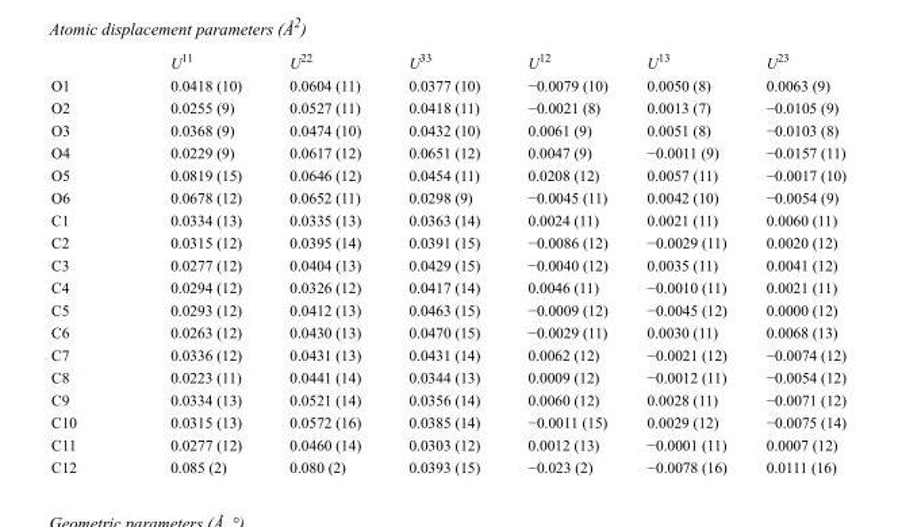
<table><thead><tr><td></td><td>U<sup>11</sup></td><td>U<sup>22</sup></td><td>U<sup>33</sup></td><td>U<sup>12</sup></td><td>U<sup>13</sup></td><td>U<sup>23</sup></td></tr></thead><tbody><tr><td>O1</td><td>0.0418 (10)</td><td>0.0604 (11)</td><td>0.0377 (10)</td><td>−0.0079 (10)</td><td>0.0050 (8)</td><td>0.0063 (9)</td></tr><tr><td>O2</td><td>0.0255 (9)</td><td>0.0527 (11)</td><td>0.0418 (11)</td><td>−0.0021 (8)</td><td>0.0013 (7)</td><td>−0.0105 (9)</td></tr><tr><td>O3</td><td>0.0368 (9)</td><td>0.0474 (10)</td><td>0.0432 (10)</td><td>0.0061 (9)</td><td>0.0051 (8)</td><td>−0.0103 (8)</td></tr><tr><td>O4</td><td>0.0229 (9)</td><td>0.0617 (12)</td><td>0.0651 (12)</td><td>0.0047 (9)</td><td>−0.0011 (9)</td><td>−0.0157 (11)</td></tr><tr><td>O5</td><td>0.0819 (15)</td><td>0.0646 (12)</td><td>0.0454 (11)</td><td>0.0208 (12)</td><td>0.0057 (11)</td><td>−0.0017 (10)</td></tr><tr><td>O6</td><td>0.0678 (12)</td><td>0.0652 (11)</td><td>0.0298 (9)</td><td>−0.0045 (11)</td><td>0.0042 (10)</td><td>−0.0054 (9)</td></tr><tr><td>C1</td><td>0.0334 (13)</td><td>0.0335 (13)</td><td>0.0363 (14)</td><td>0.0024 (11)</td><td>0.0021 (11)</td><td>0.0060 (11)</td></tr><tr><td>C2</td><td>0.0315 (12)</td><td>0.0395 (14)</td><td>0.0391 (15)</td><td>−0.0086 (12)</td><td>−0.0029 (11)</td><td>0.0020 (12)</td></tr><tr><td>C3</td><td>0.0277 (12)</td><td>0.0404 (13)</td><td>0.0429 (15)</td><td>−0.0040 (12)</td><td>0.0035 (11)</td><td>0.0041 (12)</td></tr><tr><td>C4</td><td>0.0294 (12)</td><td>0.0326 (12)</td><td>0.0417 (14)</td><td>0.0046 (11)</td><td>−0.0010 (11)</td><td>0.0021 (11)</td></tr><tr><td>C5</td><td>0.0293 (12)</td><td>0.0412 (13)</td><td>0.0463 (15)</td><td>−0.0009 (12)</td><td>−0.0045 (12)</td><td>0.0000 (12)</td></tr><tr><td>C6</td><td>0.0263 (12)</td><td>0.0430 (13)</td><td>0.0470 (15)</td><td>−0.0029 (11)</td><td>0.0030 (11)</td><td>0.0068 (13)</td></tr><tr><td>C7</td><td>0.0336 (12)</td><td>0.0431 (13)</td><td>0.0431 (14)</td><td>0.0062 (12)</td><td>−0.0021 (12)</td><td>−0.0074 (12)</td></tr><tr><td>C8</td><td>0.0223 (11)</td><td>0.0441 (14)</td><td>0.0344 (13)</td><td>0.0009 (12)</td><td>−0.0012 (11)</td><td>−0.0054 (12)</td></tr><tr><td>C9</td><td>0.0334 (13)</td><td>0.0521 (14)</td><td>0.0356 (14)</td><td>0.0060 (12)</td><td>0.0028 (11)</td><td>−0.0071 (12)</td></tr><tr><td>C10</td><td>0.0315 (13)</td><td>0.0572 (16)</td><td>0.0385 (14)</td><td>−0.0011 (15)</td><td>0.0029 (12)</td><td>−0.0075 (14)</td></tr><tr><td>C11</td><td>0.0277 (12)</td><td>0.0460 (14)</td><td>0.0303 (12)</td><td>0.0012 (13)</td><td>−0.0001 (11)</td><td>0.0007 (12)</td></tr><tr><td>C12</td><td>0.085 (2)</td><td>0.080 (2)</td><td>0.0393 (15)</td><td>−0.023 (2)</td><td>−0.0078 (16)</td><td>0.0111 (16)</td></tr></tbody></table>